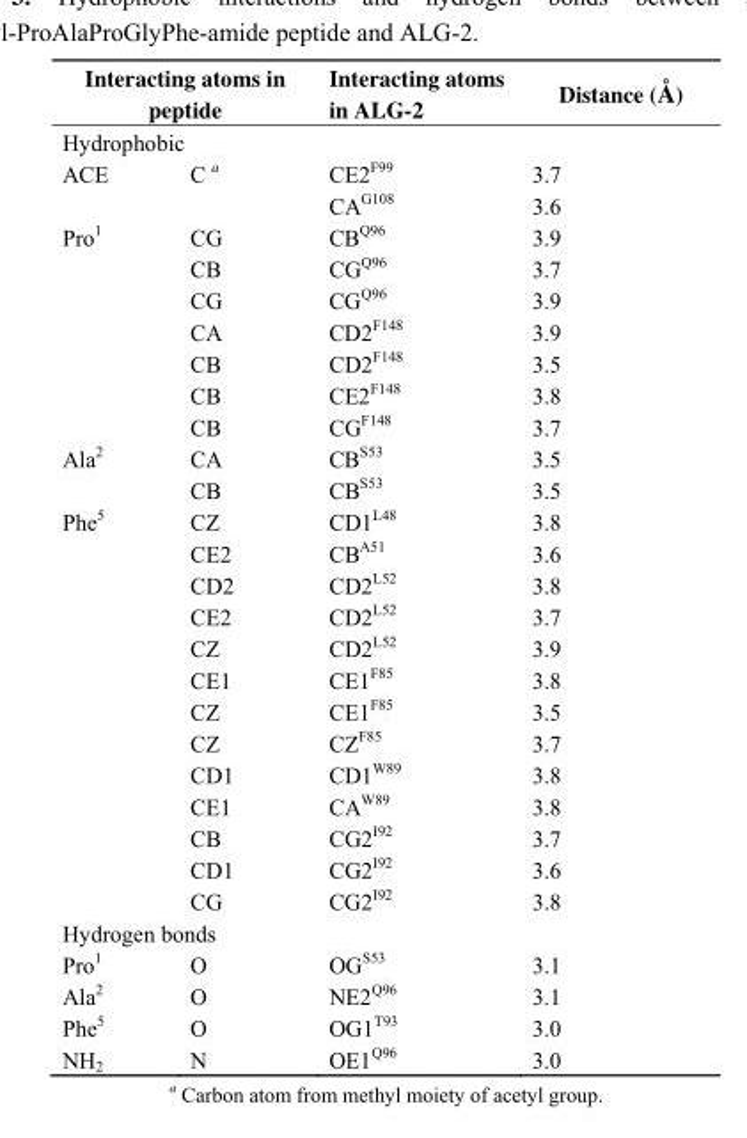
<table><thead><tr><td colspan="2">Interacting atoms in peptide</td><td>Interacting atoms in ALG-2</td><td>Distance (Å)</td></tr><tr><td colspan="4">Hydrophobic</td></tr><tr><td>ACE</td><td>C a</td><td>CE2<sup>F99</sup></td><td>3.7</td></tr></thead><tbody><tr><td></td><td></td><td>CA<sup>G108</sup></td><td>3.6</td></tr><tr><td rowspan="7">Pro<sup>1</sup></td><td>CG</td><td>CB<sup>Q96</sup></td><td>3.9</td></tr><tr><td>CB</td><td>CG<sup>Q96</sup></td><td>3.7</td></tr><tr><td>CG</td><td>CG<sup>Q96</sup></td><td>3.9</td></tr><tr><td>CA</td><td>CD2<sup>F148</sup></td><td>3.9</td></tr><tr><td>CB</td><td>CD2<sup>F148</sup></td><td>3.5</td></tr><tr><td>CB</td><td>CE2<sup>F148</sup></td><td>3.8</td></tr><tr><td>CB</td><td>CG<sup>F148</sup></td><td>3.7</td></tr><tr><td rowspan="2">Ala<sup>2</sup></td><td>CA</td><td>CB<sup>S53</sup></td><td>3.5</td></tr><tr><td>CB</td><td>CB<sup>S53</sup></td><td>3.5</td></tr><tr><td rowspan="13">Phe<sup>5</sup></td><td>CZ</td><td>CD1<sup>L48</sup></td><td>3.8</td></tr><tr><td>CE2</td><td>CB<sup>A51</sup></td><td>3.6</td></tr><tr><td>CD2</td><td>CD2<sup>L52</sup></td><td>3.8</td></tr><tr><td>CE2</td><td>CD2<sup>L52</sup></td><td>3.7</td></tr><tr><td>CZ</td><td>CD2<sup>L52</sup></td><td>3.9</td></tr><tr><td>CE1</td><td>CE1<sup>F85</sup></td><td>3.8</td></tr><tr><td>CZ</td><td>CE1<sup>F85</sup></td><td>3.5</td></tr><tr><td>CZ</td><td>CZ<sup>F85</sup></td><td>3.7</td></tr><tr><td>CD1</td><td>CD1<sup>W89</sup></td><td>3.8</td></tr><tr><td>CE1</td><td>CA<sup>W89</sup></td><td>3.8</td></tr><tr><td>CB</td><td>CG2<sup>I92</sup></td><td>3.7</td></tr><tr><td>CD1</td><td>CG2<sup>I92</sup></td><td>3.6</td></tr><tr><td>CG</td><td>CG2<sup>I92</sup></td><td>3.8</td></tr><tr><td colspan="4">Hydrogen bonds</td></tr><tr><td>Pro<sup>1</sup></td><td>O</td><td>OG<sup>S53</sup></td><td>3.1</td></tr><tr><td>Ala<sup>2</sup></td><td>O</td><td>NE2<sup>Q96</sup></td><td>3.1</td></tr><tr><td>Phe<sup>5</sup></td><td>O</td><td>OG1<sup>T93</sup></td><td>3.0</td></tr><tr><td>NH<sup>2</sup></td><td>N</td><td>OE1<sup>Q96</sup></td><td>3.0</td></tr></tbody></table>